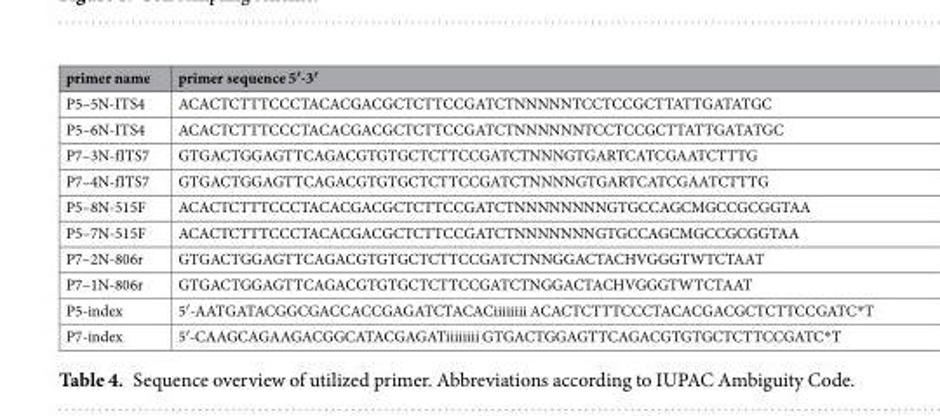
<table><thead><tr><td>primer name</td><td>primer sequence 5′-3′</td></tr></thead><tbody><tr><td>P5–5N-ITS4</td><td>ACACTCTTTCCCTACACGACGCTCTTCCGATCTNNNNNTCCTCCGCTTATTGATATGC</td></tr><tr><td>P5–6N-ITS4</td><td>ACACTCTTTCCCTACACGACGCTCTTCCGATCTNNNNNNTCCTCCGCTTATTGATATGC</td></tr><tr><td>P7–3N-fITS7</td><td>GTGACTGGAGTTCAGACGTGTGCTCTTCCGATCTNNNGTGARTCATCGAATCTTTG</td></tr><tr><td>P7–4N-fITS7</td><td>GTGACTGGAGTTCAGACGTGTGCTCTTCCGATCTNNNNGTGARTCATCGAATCTTTG</td></tr><tr><td>P5–8N-515F</td><td>ACACTCTTTCCCTACACGACGCTCTTCCGATCTNNNNNNNNGTGCCAGCMGCCGCGGTAA</td></tr><tr><td>P5–7N-515F</td><td>ACACTCTTTCCCTACACGACGCTCTTCCGATCTNNNNNNNGTGCCAGCMGCCGCGGTAA</td></tr><tr><td>P7–2N-806r</td><td>GTGACTGGAGTTCAGACGTGTGCTCTTCCGATCTNNGGACTACHVGGGTWTCTAAT</td></tr><tr><td>P7–1N-806r</td><td>GTGACTGGAGTTCAGACGTGTGCTCTTCCGATCTNGGACTACHVGGGTWTCTAAT</td></tr><tr><td>P5-index</td><td>5′-AATGATACGGCGACCACCGAGATCTACACiiiiiiii ACACTCTTTCCCTACACGACGCTCTTCCGATC*T</td></tr><tr><td>P7-index</td><td>5′-CAAGCAGAAGACGGCATACGAGATiiiiiiii GTGACTGGAGTTCAGACGTGTGCTCTTCCGATC*T</td></tr></tbody></table>